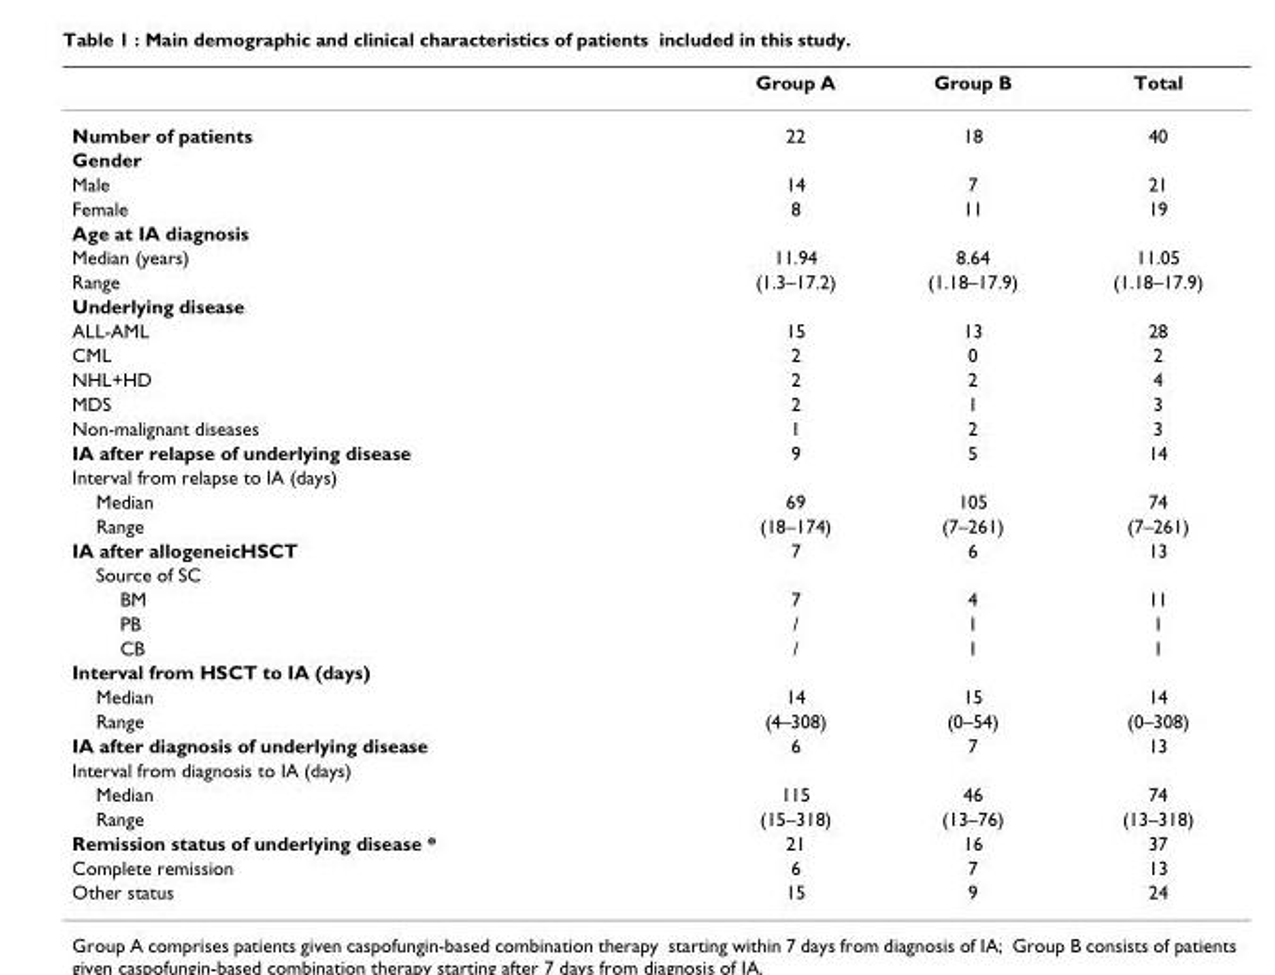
<table><thead><tr><td></td><td>Group A</td><td>Group B</td><td>Total</td></tr></thead><tbody><tr><td>Number of patients</td><td>22</td><td>18</td><td>40</td></tr><tr><td colspan="4">Gender</td></tr><tr><td>Male</td><td>14</td><td>7</td><td>21</td></tr><tr><td>Female</td><td>8</td><td>11</td><td>19</td></tr><tr><td colspan="4">Age at IA diagnosis</td></tr><tr><td>Median (years)</td><td>11.94</td><td>8.64</td><td>11.05</td></tr><tr><td>Range</td><td>(1.3–17.2)</td><td>(1.18–17.9)</td><td>(1.18–17.9)</td></tr><tr><td colspan="4">Underlying disease</td></tr><tr><td>ALL-AML</td><td>15</td><td>13</td><td>28</td></tr><tr><td>CML</td><td>2</td><td>0</td><td>2</td></tr><tr><td>NHL+HD</td><td>2</td><td>2</td><td>4</td></tr><tr><td>MDS</td><td>2</td><td>1</td><td>3</td></tr><tr><td>Non-malignant diseases</td><td>1</td><td>2</td><td>3</td></tr><tr><td>IA after relapse of underlying disease</td><td>9</td><td>5</td><td>14</td></tr><tr><td colspan="4">Interval from relapse to IA (days)</td></tr><tr><td>Median</td><td>69</td><td>105</td><td>74</td></tr><tr><td>Range</td><td>(18–174)</td><td>(7–261)</td><td>(7–261)</td></tr><tr><td>IA after allogeneicHSCT</td><td>7</td><td>6</td><td>13</td></tr><tr><td colspan="4">Source of SC</td></tr><tr><td>BM</td><td>7</td><td>4</td><td>11</td></tr><tr><td>PB</td><td>/</td><td>1</td><td>1</td></tr><tr><td>CB</td><td>/</td><td>1</td><td>1</td></tr><tr><td colspan="4">Interval from HSCT to IA (days)</td></tr><tr><td>Median</td><td>14</td><td>15</td><td>14</td></tr><tr><td>Range</td><td>(4–308)</td><td>(0–54)</td><td>(0–308)</td></tr><tr><td>IA after diagnosis of underlying disease</td><td>6</td><td>7</td><td>13</td></tr><tr><td colspan="4">Interval from diagnosis to IA (days)</td></tr><tr><td>Median</td><td>115</td><td>46</td><td>74</td></tr><tr><td>Range</td><td>(15–318)</td><td>(13–76)</td><td>(13–318)</td></tr><tr><td>Remission status of underlying disease *</td><td>21</td><td>16</td><td>37</td></tr><tr><td>Complete remission</td><td>6</td><td>7</td><td>13</td></tr><tr><td>Other status</td><td>15</td><td>9</td><td>24</td></tr></tbody></table>